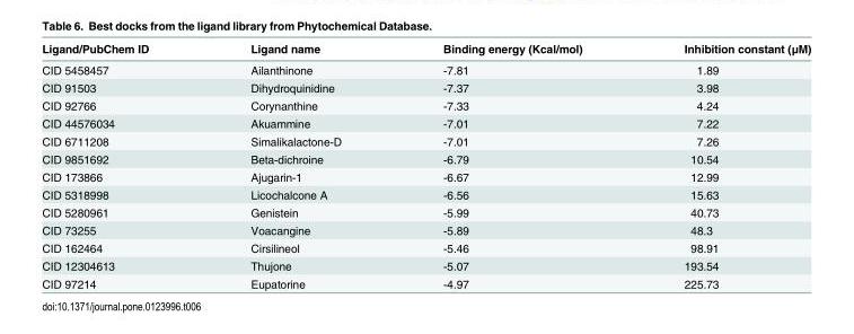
<table><thead><tr><td>Ligand/PubChem ID</td><td>Ligand name</td><td>Binding energy (Kcal/mol)</td><td>Inhibition constant (μM)</td></tr></thead><tbody><tr><td>CID 5458457</td><td>Ailanthinone</td><td>-7.81</td><td>1.89</td></tr><tr><td>CID 91503</td><td>Dihydroquinidine</td><td>-7.37</td><td>3.98</td></tr><tr><td>CID 92766</td><td>Corynanthine</td><td>-7.33</td><td>4.24</td></tr><tr><td>CID 44576034</td><td>Akuammine</td><td>-7.01</td><td>7.22</td></tr><tr><td>CID 6711208</td><td>Simalikalactone-D</td><td>-7.01</td><td>7.26</td></tr><tr><td>CID 9851692</td><td>Beta-dichroine</td><td>-6.79</td><td>10.54</td></tr><tr><td>CID 173866</td><td>Ajugarin-1</td><td>-6.67</td><td>12.99</td></tr><tr><td>CID 5318998</td><td>Licochalcone A</td><td>-6.56</td><td>15.63</td></tr><tr><td>CID 5280961</td><td>Genistein</td><td>-5.99</td><td>40.73</td></tr><tr><td>CID 73255</td><td>Voacangine</td><td>-5.89</td><td>48.3</td></tr><tr><td>CID 162464</td><td>Cirsilineol</td><td>-5.46</td><td>98.91</td></tr><tr><td>CID 12304613</td><td>Thujone</td><td>-5.07</td><td>193.54</td></tr><tr><td>CID 97214</td><td>Eupatorine</td><td>-4.97</td><td>225.73</td></tr></tbody></table>